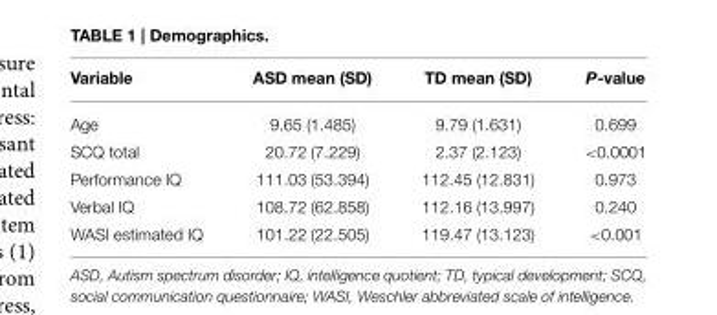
<table><thead><tr><td>Variable</td><td>ASD mean (SD)</td><td>TD mean (SD)</td><td>P-value</td></tr></thead><tbody><tr><td>Age</td><td>9.65 (1.485)</td><td>9.79 (1.631)</td><td>0.699</td></tr><tr><td>SCQ total</td><td>20.72 (7.229)</td><td>2.37 (2.123)</td><td>&lt;0.0001</td></tr><tr><td>Performance IQ</td><td>111.03 (53.394)</td><td>112.45 (12.831)</td><td>0.973</td></tr><tr><td>Verbal IQ</td><td>108.72 (62.858)</td><td>112.16 (13.997)</td><td>0.240</td></tr><tr><td>WASI estimated IQ</td><td>101.22 (22.505)</td><td>119.47 (13.123)</td><td>&lt;0.001</td></tr></tbody></table>